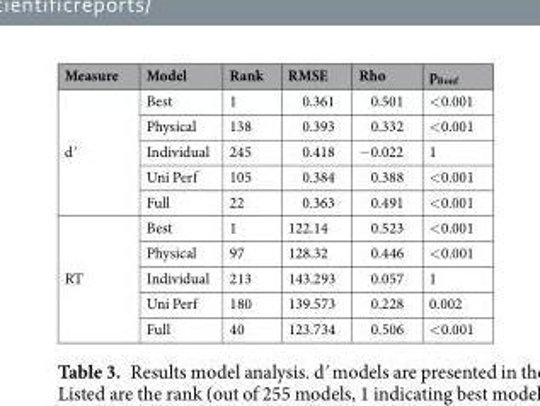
<table><thead><tr><td>Measure</td><td>Model</td><td>Rank</td><td>RMSE</td><td>Rho</td><td>p<sub>Bonf</sub></td></tr></thead><tbody><tr><td rowspan="5">dʹ</td><td>Best</td><td>1</td><td>0.361</td><td>0.501</td><td>&lt;0.001</td></tr><tr><td>Physical</td><td>138</td><td>0.393</td><td>0.332</td><td>&lt;0.001</td></tr><tr><td>Individual</td><td>245</td><td>0.418</td><td>−0.022</td><td>1</td></tr><tr><td>Uni Perf</td><td>105</td><td>0.384</td><td>0.388</td><td>&lt;0.001</td></tr><tr><td>Full</td><td>22</td><td>0.363</td><td>0.491</td><td>&lt;0.001</td></tr><tr><td rowspan="5">RT</td><td>Best</td><td>1</td><td>122.14</td><td>0.523</td><td>&lt;0.001</td></tr><tr><td>Physical</td><td>97</td><td>128.32</td><td>0.446</td><td>&lt;0.001</td></tr><tr><td>Individual</td><td>213</td><td>143.293</td><td>0.057</td><td>1</td></tr><tr><td>Uni Perf</td><td>180</td><td>139.573</td><td>0.228</td><td>0.002</td></tr><tr><td>Full</td><td>40</td><td>123.734</td><td>0.506</td><td>&lt;0.001</td></tr></tbody></table>